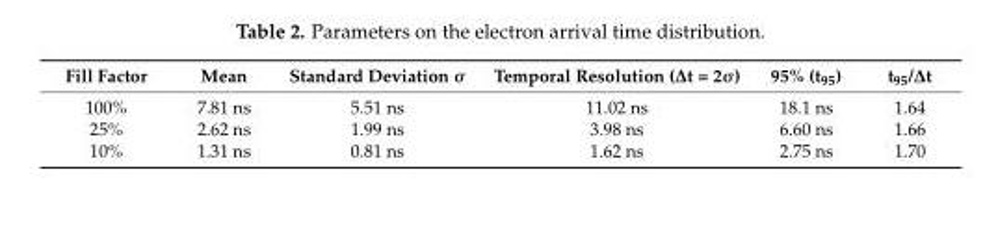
<table><thead><tr><td>Fill Factor</td><td>Mean</td><td>Standard Deviation σ</td><td>Temporal Resolution (∆t = 2σ)</td><td>95% (t<sub>95</sub>)</td><td>t95/∆t</td></tr></thead><tbody><tr><td>100%</td><td>7.81 ns</td><td>5.51 ns</td><td>11.02 ns</td><td>18.1 ns</td><td>1.64</td></tr><tr><td>25%</td><td>2.62 ns</td><td>1.99 ns</td><td>3.98 ns</td><td>6.60 ns</td><td>1.66</td></tr><tr><td>10%</td><td>1.31 ns</td><td>0.81 ns</td><td>1.62 ns</td><td>2.75 ns</td><td>1.70</td></tr></tbody></table>